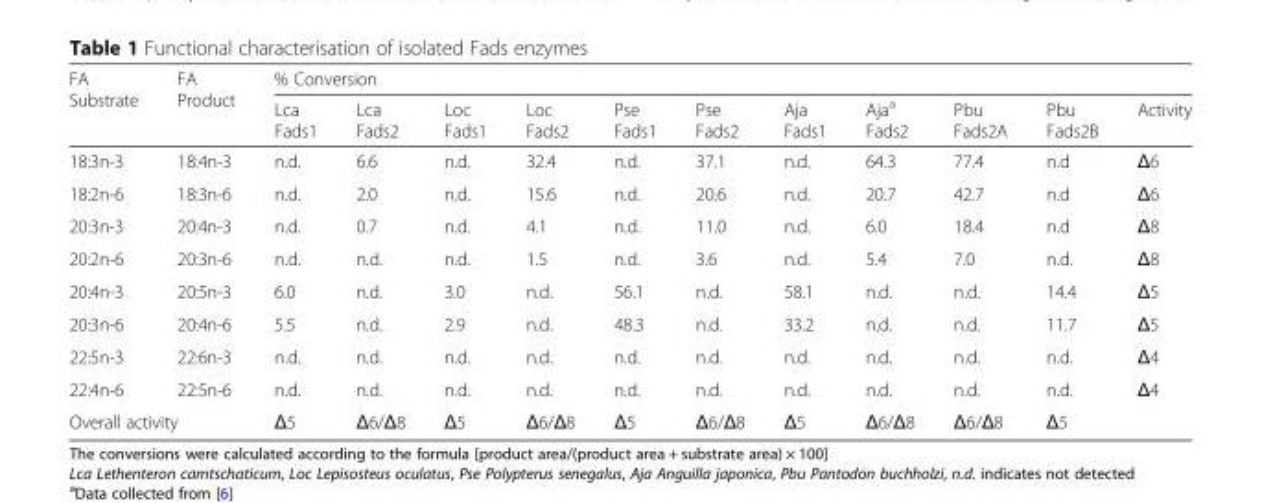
<table><thead><tr><td rowspan="2">FA Substrate</td><td rowspan="2">FA Product</td><td colspan="11">% Conversion</td></tr><tr><td>Lca Fads1</td><td>Lca Fads2</td><td>Loc Fads1</td><td>Loc Fads2</td><td>Pse Fads1</td><td>Pse Fads2</td><td>Aja Fads1</td><td>Aja<sup>a</sup> Fads2</td><td>Pbu Fads2A</td><td>Pbu Fads2B</td><td>Activity</td></tr></thead><tbody><tr><td>18:3n-3</td><td>18:4n-3</td><td>n.d.</td><td>6.6</td><td>n.d.</td><td>32.4</td><td>n.d.</td><td>37.1</td><td>n.d.</td><td>64.3</td><td>77.4</td><td>n.d</td><td>Δ6</td></tr><tr><td>18:2n-6</td><td>18:3n-6</td><td>n.d.</td><td>2.0</td><td>n.d.</td><td>15.6</td><td>n.d.</td><td>20.6</td><td>n.d.</td><td>20.7</td><td>42.7</td><td>n.d</td><td>Δ6</td></tr><tr><td>20:3n-3</td><td>20:4n-3</td><td>n.d.</td><td>0.7</td><td>n.d.</td><td>4.1</td><td>n.d.</td><td>11.0</td><td>n.d.</td><td>6.0</td><td>18.4</td><td>n.d</td><td>Δ8</td></tr><tr><td>20:2n-6</td><td>20:3n-6</td><td>n.d.</td><td>n.d.</td><td>n.d.</td><td>1.5</td><td>n.d.</td><td>3.6</td><td>n.d.</td><td>5.4</td><td>7.0</td><td>n.d.</td><td>Δ8</td></tr><tr><td>20:4n-3</td><td>20:5n-3</td><td>6.0</td><td>n.d.</td><td>3.0</td><td>n.d.</td><td>56.1</td><td>n.d.</td><td>58.1</td><td>n.d.</td><td>n.d.</td><td>14.4</td><td>Δ5</td></tr><tr><td>20:3n-6</td><td>20:4n-6</td><td>5.5</td><td>n.d.</td><td>2.9</td><td>n.d.</td><td>48.3</td><td>n.d.</td><td>33.2</td><td>n.d.</td><td>n.d.</td><td>11.7</td><td>Δ5</td></tr><tr><td>22:5n-3</td><td>22:6n-3</td><td>n.d.</td><td>n.d.</td><td>n.d.</td><td>n.d.</td><td>n.d.</td><td>n.d.</td><td>n.d.</td><td>n.d.</td><td>n.d.</td><td>n.d.</td><td>Δ4</td></tr><tr><td>22:4n-6</td><td>22:5n-6</td><td>n.d.</td><td>n.d.</td><td>n.d.</td><td>n.d.</td><td>n.d.</td><td>n.d.</td><td>n.d.</td><td>n.d.</td><td>n.d.</td><td>n.d.</td><td>Δ4</td></tr><tr><td colspan="2">Overall activity</td><td>Δ5</td><td>Δ6/Δ8</td><td>Δ5</td><td>Δ6/Δ8</td><td>Δ5</td><td>Δ6/Δ8</td><td>Δ5</td><td>Δ6/Δ8</td><td>Δ6/Δ8</td><td>Δ5</td><td></td></tr></tbody></table>